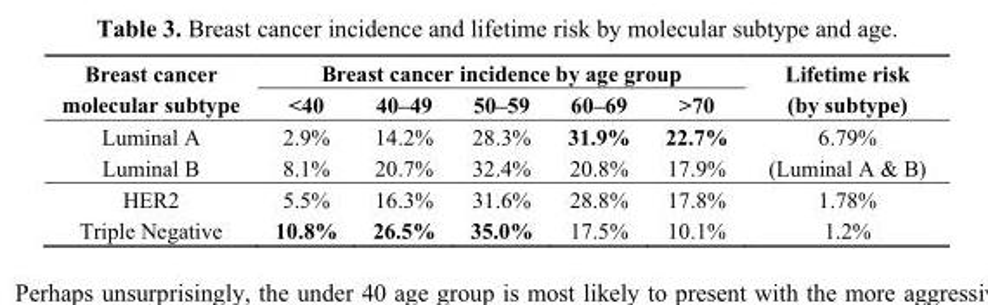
<table><thead><tr><td rowspan="2">Breast cancer molecular subtype</td><td colspan="5">Breast cancer incidence by age group</td><td rowspan="2">Lifetime risk (by subtype)</td></tr><tr><td>&lt;40</td><td>40–49</td><td>50–59</td><td>60–69</td><td>&gt;70</td></tr></thead><tbody><tr><td>Luminal A</td><td>2.9%</td><td>14.2%</td><td>28.3%</td><td>31.9%</td><td>22.7%</td><td rowspan="2">6.79% (Luminal A &amp; B)</td></tr><tr><td>Luminal B</td><td>8.1%</td><td>20.7%</td><td>32.4%</td><td>20.8%</td><td>17.9%</td></tr><tr><td>HER2</td><td>5.5%</td><td>16.3%</td><td>31.6%</td><td>28.8%</td><td>17.8%</td><td>1.78%</td></tr><tr><td>Triple Negative</td><td>10.8%</td><td>26.5%</td><td>35.0%</td><td>17.5%</td><td>10.1%</td><td>1.2%</td></tr></tbody></table>